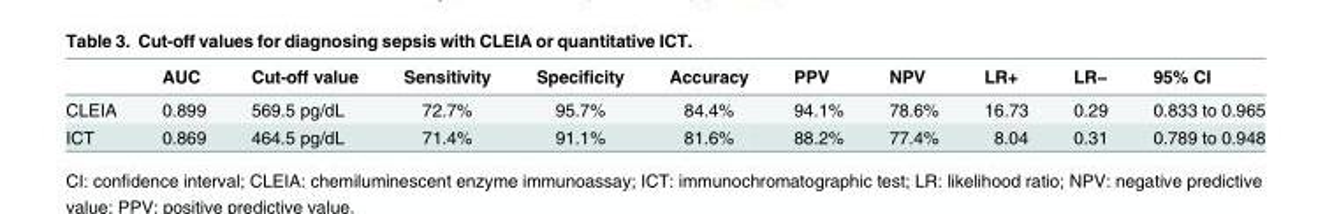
<table><thead><tr><td></td><td>AUC</td><td>Cut-off value</td><td>Sensitivity</td><td>Specificity</td><td>Accuracy</td><td>PPV</td><td>NPV</td><td>LR+</td><td>LR−</td><td>95% CI</td></tr></thead><tbody><tr><td>CLEIA</td><td>0.899</td><td>569.5 pg/dL</td><td>72.7%</td><td>95.7%</td><td>84.4%</td><td>94.1%</td><td>78.6%</td><td>16.73</td><td>0.29</td><td>0.833 to 0.965</td></tr><tr><td>ICT</td><td>0.869</td><td>464.5 pg/dL</td><td>71.4%</td><td>91.1%</td><td>81.6%</td><td>88.2%</td><td>77.4%</td><td>8.04</td><td>0.31</td><td>0.789 to 0.948</td></tr></tbody></table>